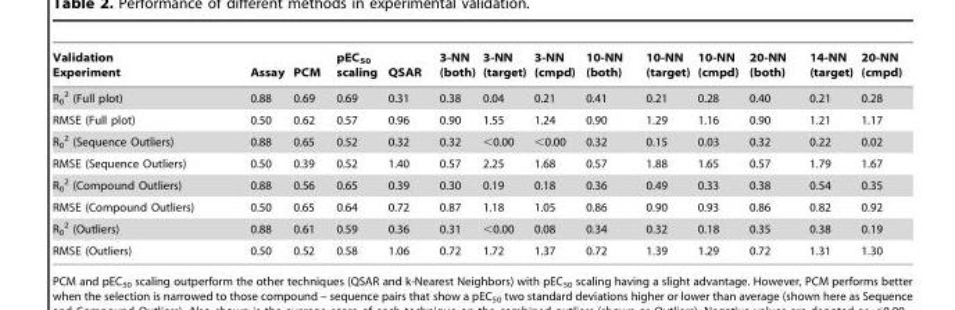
<table><thead><tr><td>Validation Experiment</td><td>Assay</td><td>PCM</td><td>pEC<sub>50</sub> scaling</td><td>QSAR</td><td>3-NN (both)</td><td>3-NN (target)</td><td>3-NN (cmpd)</td><td>10-NN (both)</td><td>10-NN (target)</td><td>10-NN (cmpd)</td><td>20-NN (both)</td><td>14-NN (target)</td><td>20-NN (cmpd)</td></tr></thead><tbody><tr><td>R<sub>0</sub> <sup>2</sup> (Full plot)</td><td>0.88</td><td>0.69</td><td>0.69</td><td>0.31</td><td>0.38</td><td>0.04</td><td>0.21</td><td>0.41</td><td>0.21</td><td>0.28</td><td>0.40</td><td>0.21</td><td>0.28</td></tr><tr><td>RMSE (Full plot)</td><td>0.50</td><td>0.62</td><td>0.57</td><td>0.96</td><td>0.90</td><td>1.55</td><td>1.24</td><td>0.90</td><td>1.29</td><td>1.16</td><td>0.90</td><td>1.21</td><td>1.17</td></tr><tr><td>R<sub>0</sub> <sup>2</sup> (Sequence Outliers)</td><td>0.88</td><td>0.65</td><td>0.52</td><td>0.32</td><td>0.32</td><td>&lt;0.00</td><td>&lt;0.00</td><td>0.32</td><td>0.15</td><td>0.03</td><td>0.32</td><td>0.22</td><td>0.02</td></tr><tr><td>RMSE (Sequence Outliers)</td><td>0.50</td><td>0.39</td><td>0.52</td><td>1.40</td><td>0.57</td><td>2.25</td><td>1.68</td><td>0.57</td><td>1.88</td><td>1.65</td><td>0.57</td><td>1.79</td><td>1.67</td></tr><tr><td>R<sub>0</sub> <sup>2</sup> (Compound Outliers)</td><td>0.88</td><td>0.56</td><td>0.65</td><td>0.39</td><td>0.30</td><td>0.19</td><td>0.18</td><td>0.36</td><td>0.49</td><td>0.33</td><td>0.38</td><td>0.54</td><td>0.35</td></tr><tr><td>RMSE (Compound Outliers)</td><td>0.50</td><td>0.65</td><td>0.64</td><td>0.72</td><td>0.87</td><td>1.18</td><td>1.05</td><td>0.86</td><td>0.90</td><td>0.93</td><td>0.86</td><td>0.82</td><td>0.92</td></tr><tr><td>R<sub>0</sub> <sup>2</sup> (Outliers)</td><td>0.88</td><td>0.61</td><td>0.59</td><td>0.36</td><td>0.31</td><td>&lt;0.00</td><td>0.08</td><td>0.34</td><td>0.32</td><td>0.18</td><td>0.35</td><td>0.38</td><td>0.19</td></tr><tr><td>RMSE (Outliers)</td><td>0.50</td><td>0.52</td><td>0.58</td><td>1.06</td><td>0.72</td><td>1.72</td><td>1.37</td><td>0.72</td><td>1.39</td><td>1.29</td><td>0.72</td><td>1.31</td><td>1.30</td></tr></tbody></table>